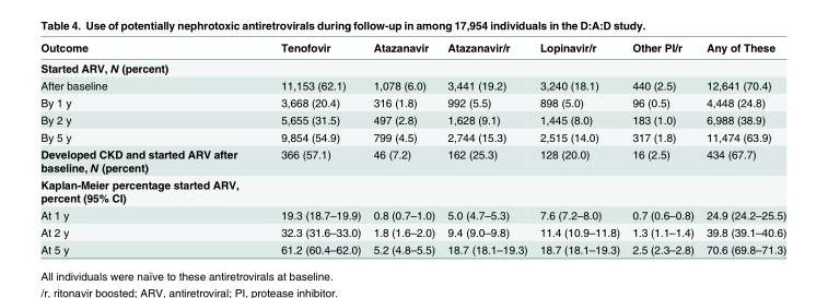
<table><thead><tr><td>Outcome</td><td>Tenofovir</td><td>Atazanavir</td><td>Atazanavir/r</td><td>Lopinavir/r</td><td>Other PI/r</td><td>Any of These</td></tr></thead><tbody><tr><td colspan="7">Started ARV, N (percent)</td></tr><tr><td>After baseline</td><td>11,153 (62.1)</td><td>1,078 (6.0)</td><td>3,441 (19.2)</td><td>3,240 (18.1)</td><td>440 (2.5)</td><td>12,641 (70.4)</td></tr><tr><td>By 1 y</td><td>3,668 (20.4)</td><td>316 (1.8)</td><td>992 (5.5)</td><td>898 (5.0)</td><td>96 (0.5)</td><td>4,448 (24.8)</td></tr><tr><td>By 2 y</td><td>5,655 (31.5)</td><td>497 (2.8)</td><td>1,628 (9.1)</td><td>1,445 (8.0)</td><td>183 (1.0)</td><td>6,988 (38.9)</td></tr><tr><td>By 5 y</td><td>9,854 (54.9)</td><td>799 (4.5)</td><td>2,744 (15.3)</td><td>2,515 (14.0)</td><td>317 (1.8)</td><td>11,474 (63.9)</td></tr><tr><td>Developed CKD and started ARV after baseline, N (percent)</td><td>366 (57.1)</td><td>46 (7.2)</td><td>162 (25.3)</td><td>128 (20.0)</td><td>16 (2.5)</td><td>434 (67.7)</td></tr><tr><td colspan="7">Kaplan-Meier percentage started ARV, percent (95% CI)</td></tr><tr><td>At 1 y</td><td>19.3 (18.7–19.9)</td><td>0.8 (0.7–1.0)</td><td>5.0 (4.7–5.3)</td><td>7.6 (7.2–8.0)</td><td>0.7 (0.6–0.8)</td><td>24.9 (24.2–25.5)</td></tr><tr><td>At 2 y</td><td>32.3 (31.6–33.0)</td><td>1.8 (1.6–2.0)</td><td>9.4 (9.0–9.8)</td><td>11.4 (10.9–11.8)</td><td>1.3 (1.1–1.4)</td><td>39.8 (39.1–40.6)</td></tr><tr><td>At 5 y</td><td>61.2 (60.4–62.0)</td><td>5.2 (4.8–5.5)</td><td>18.7 (18.1–19.3)</td><td>18.7 (18.1–19.3)</td><td>2.5 (2.3–2.8)</td><td>70.6 (69.8–71.3)</td></tr></tbody></table>